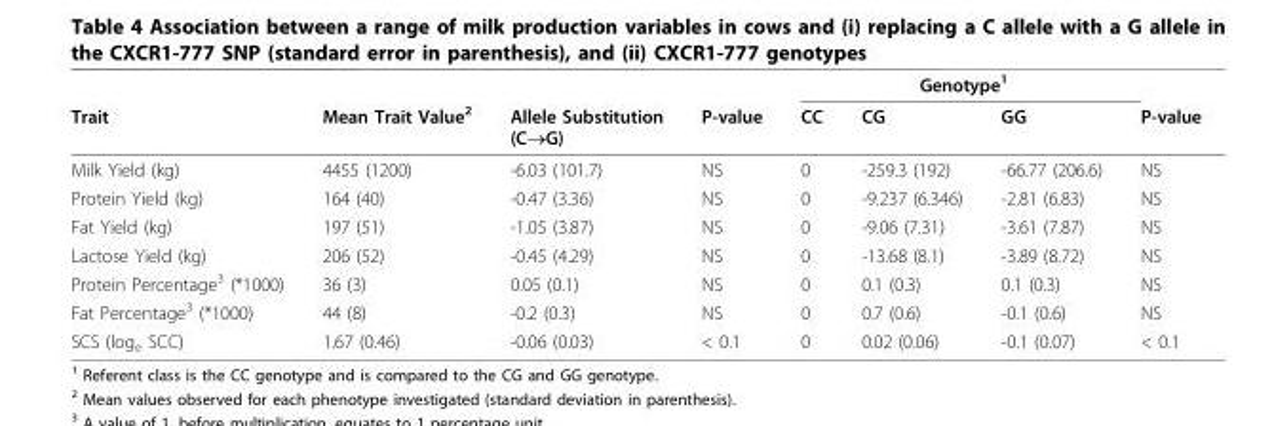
<table><thead><tr><td rowspan="2">Trait</td><td rowspan="2">Mean Trait Value<sup>2</sup></td><td rowspan="2">Allele Substitution (C→G)</td><td rowspan="2">P-value</td><td colspan="3">Genotype<sup>1</sup></td><td rowspan="2">P-value</td></tr><tr><td>CC</td><td>CG</td><td>GG</td></tr></thead><tbody><tr><td>Milk Yield (kg)</td><td>4455 (1200)</td><td>-6.03 (101.7)</td><td>NS</td><td>0</td><td>-259.3 (192)</td><td>-66.77 (206.6)</td><td>NS</td></tr><tr><td>Protein Yield (kg)</td><td>164 (40)</td><td>-0.47 (3.36)</td><td>NS</td><td>0</td><td>-9.237 (6.346)</td><td>-2.81 (6.83)</td><td>NS</td></tr><tr><td>Fat Yield (kg)</td><td>197 (51)</td><td>-1.05 (3.87)</td><td>NS</td><td>0</td><td>-9.06 (7.31)</td><td>-3.61 (7.87)</td><td>NS</td></tr><tr><td>Lactose Yield (kg)</td><td>206 (52)</td><td>-0.45 (4.29)</td><td>NS</td><td>0</td><td>-13.68 (8.1)</td><td>-3.89 (8.72)</td><td>NS</td></tr><tr><td>Protein Percentage<sup>3</sup> (*1000)</td><td>36 (3)</td><td>0.05 (0.1)</td><td>NS</td><td>0</td><td>0.1 (0.3)</td><td>0.1 (0.3)</td><td>NS</td></tr><tr><td>Fat Percentage<sup>3</sup> (*1000)</td><td>44 (8)</td><td>-0.2 (0.3)</td><td>NS</td><td>0</td><td>0.7 (0.6)</td><td>-0.1 (0.6)</td><td>NS</td></tr><tr><td>SCS (log<sub>e</sub> SCC)</td><td>1.67 (0.46)</td><td>-0.06 (0.03)</td><td>&lt; 0.1</td><td>0</td><td>0.02 (0.06)</td><td>-0.1 (0.07)</td><td>&lt; 0.1</td></tr></tbody></table>